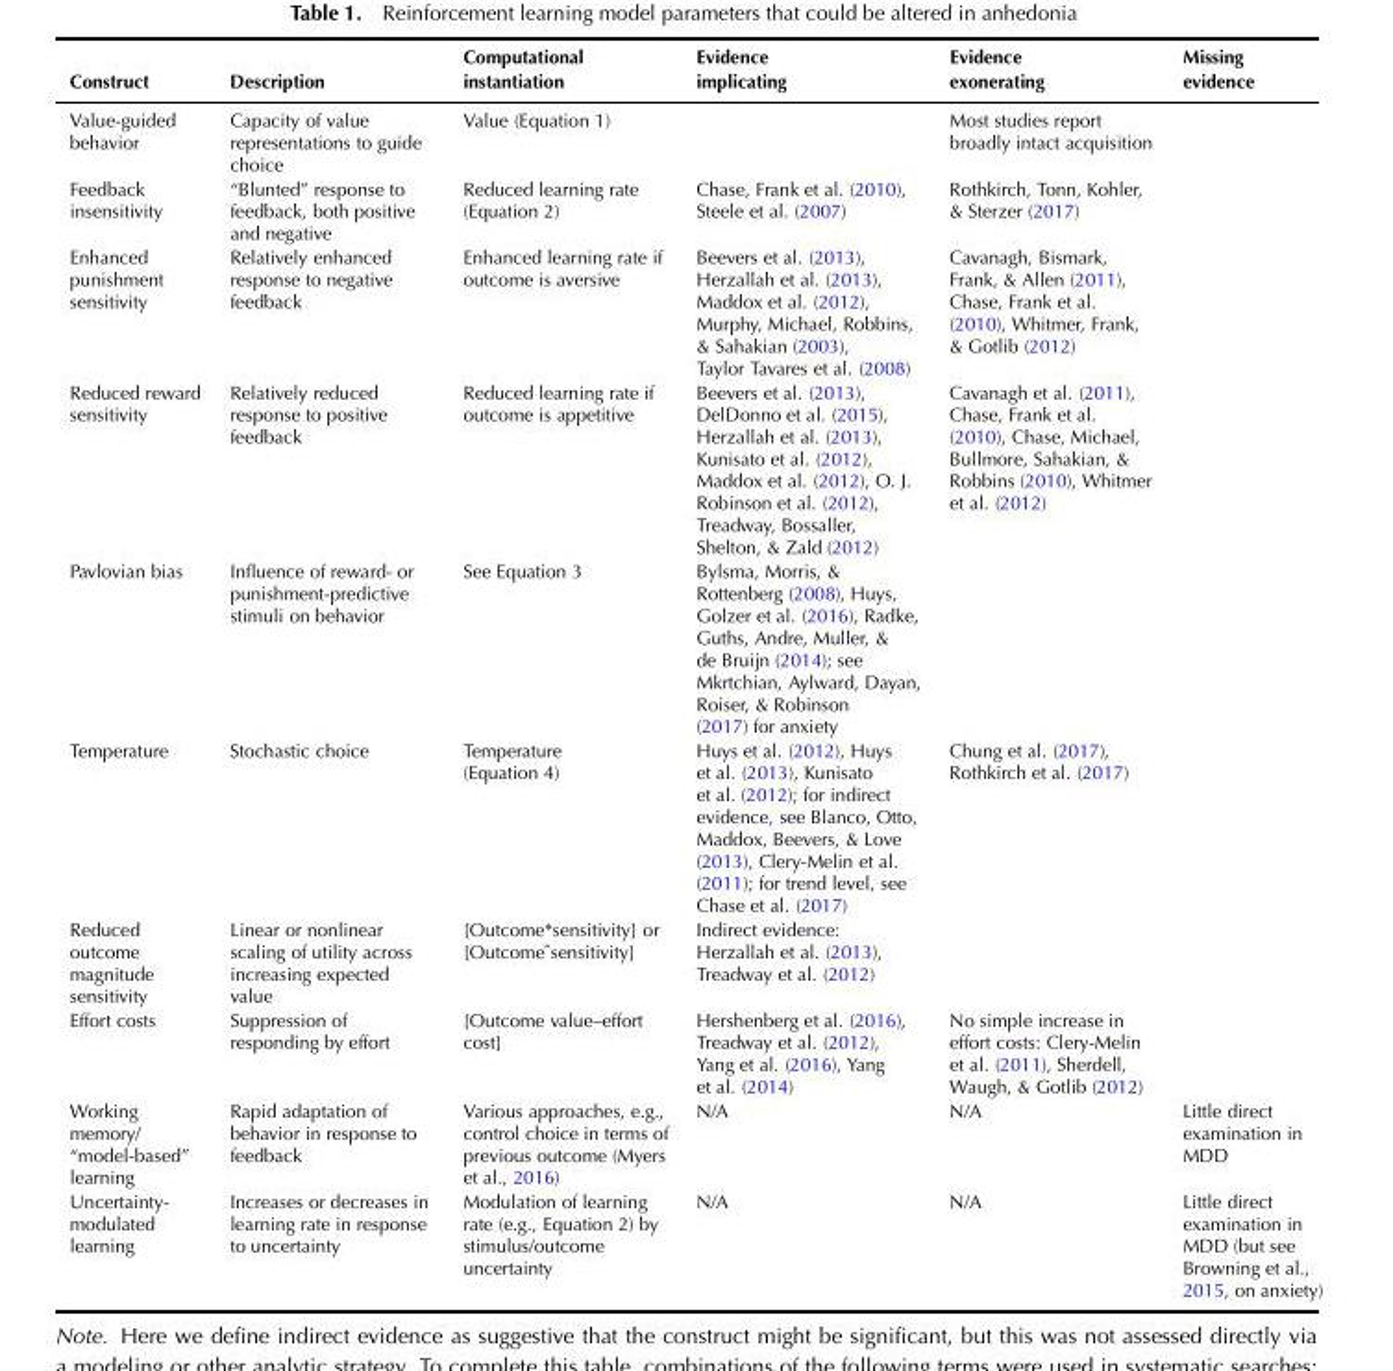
<table><thead><tr><td>Construct</td><td>Description</td><td>instantiation</td><td>implicating</td><td>exonerating</td><td>evidence</td></tr></thead><tbody><tr><td>Value-guided behavior</td><td>Capacity of value representations to guide choice</td><td>Value (Equation 1)</td><td></td><td>Most studies report broadly intact acquisition</td><td></td></tr><tr><td>Feedback insensitivity</td><td>“Blunted” response to feedback, both positive and negative</td><td>Reduced learning rate (Equation 2)</td><td>Chase, Frank et al. (2010), Steele et al. (2007)</td><td>Rothkirch, Tonn, Kohler, &amp; Sterzer (2017)</td><td></td></tr><tr><td>Enhanced punishment sensitivity</td><td>Relatively enhanced response to negative feedback</td><td>Enhanced learning rate if outcome is aversive</td><td>Beevers et al. (2013), Herzallah et al. (2013), Maddox et al. (2012), Murphy, Michael, Robbins, &amp; Sahakian (2003), Taylor Tavares et al. (2008)</td><td>Cavanagh, Bismark, Frank, &amp; Allen (2011), Chase, Frank et al. (2010), Whitmer, Frank, &amp; Gotlib (2012)</td><td></td></tr><tr><td>Reduced reward sensitivity</td><td>Relatively reduced response to positive feedback</td><td>Reduced learning rate if outcome is appetitive</td><td>Beevers et al. (2013), DelDonno et al. (2015), Herzallah et al. (2013), Kunisato et al. (2012), Maddox et al. (2012), O. J. Robinson et al. (2012), Treadway, Bossaller, Shelton, &amp; Zald (2012)</td><td>Cavanagh et al. (2011), Chase, Frank et al. (2010), Chase, Michael, Bullmore, Sahakian, &amp; Robbins (2010), Whitmer et al. (2012)</td><td></td></tr><tr><td>Pavlovian bias</td><td>Influence of reward- or punishment-predictive stimuli on behavior</td><td>See Equation 3</td><td>Bylsma, Morris, &amp; Rottenberg (2008), Huys, Golzer et al. (2016), Radke, Guths, Andre, Muller, &amp; de Bruijn (2014); see Mkrtchian, Aylward, Dayan, Roiser, &amp; Robinson (2017) for anxiety</td><td></td><td></td></tr><tr><td>Temperature</td><td>Stochastic choice</td><td>Temperature (Equation 4)</td><td>Huys et al. (2012), Huys et al. (2013), Kunisato et al. (2012); for indirect evidence, see Blanco, Otto, Maddox, Beevers, &amp; Love (2013), Clery-Melin et al. (2011); for trend level, see Chase et al. (2017)</td><td>Chung et al. (2017), Rothkirch et al. (2017)</td><td></td></tr><tr><td>Reduced outcome magnitude sensitivity</td><td>Linear or nonlinear scaling of utility across increasing expected value</td><td>[Outcome*sensitivity] or [Outcomeˆsensitivity]</td><td>Indirect evidence: Herzallah et al. (2013), Treadway et al. (2012)</td><td></td><td></td></tr><tr><td>Effort costs</td><td>Suppression of responding by effort</td><td>[Outcome value–effort cost]</td><td>Hershenberg et al. (2016), Treadway et al. (2012), Yang et al. (2016), Yang et al. (2014)</td><td>No simple increase in effort costs: Clery-Melin et al. (2011), Sherdell, Waugh, &amp; Gotlib (2012)</td><td></td></tr><tr><td>Working memory/ “model-based” learning</td><td>Rapid adaptation of behavior in response to feedback</td><td>Various approaches, e.g., control choice in terms of previous outcome (Myers et al., 2016)</td><td>N/A</td><td>N/A</td><td>Little direct examination in MDD</td></tr><tr><td>Uncertainty- modulated learning</td><td>Increases or decreases in learning rate in response to uncertainty</td><td>Modulation of learning rate (e.g., Equation 2) by stimulus/outcome uncertainty</td><td>N/A</td><td>N/A</td><td>Little direct examination in MDD (but see Browning et al., 2015, on anxiety)</td></tr></tbody></table>